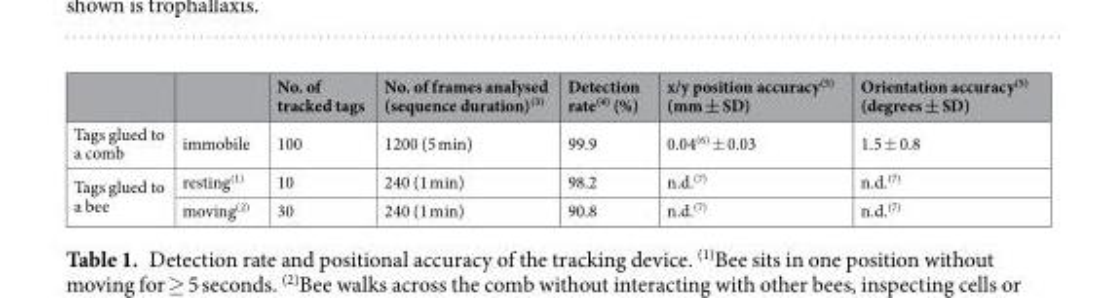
<table><thead><tr><td></td><td></td><td>No. of tracked tags</td><td>No. of frames analysed (sequence duration)<sup>(3)</sup></td><td>Detection rate<sup>(4)</sup> (%)</td><td>x/y position accuracy<sup>(5)</sup> (mm ± SD)</td><td>Orientation accuracy<sup>(5)</sup> (degrees ± SD)</td></tr></thead><tbody><tr><td>Tags glued to a comb</td><td>immobile</td><td>100</td><td>1200 (5 min)</td><td>99.9</td><td>0.04<sup>(6)</sup> ± 0.03</td><td>1.5 ± 0.8</td></tr><tr><td rowspan="2">Tags glued to a bee</td><td>resting<sup>(1)</sup></td><td>10</td><td>240 (1 min)</td><td>98.2</td><td>n.d.<sup>(7)</sup></td><td>n.d.<sup>(7)</sup></td></tr><tr><td>moving<sup>(2)</sup></td><td>30</td><td>240 (1 min)</td><td>90.8</td><td>n.d.<sup>(7)</sup></td><td>n.d.<sup>(7)</sup></td></tr></tbody></table>